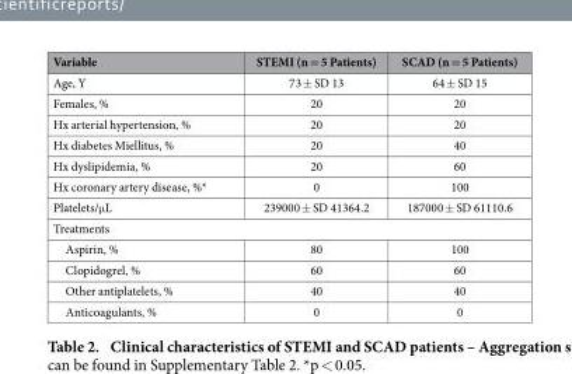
<table><thead><tr><td>Variable</td><td>STEMI (n = 5 Patients)</td><td>SCAD (n = 5 Patients)</td></tr></thead><tbody><tr><td>Age, Y</td><td>73 ± SD 13</td><td>64 ± SD 15</td></tr><tr><td>Females, %</td><td>20</td><td>20</td></tr><tr><td>Hx arterial hypertension, %</td><td>20</td><td>20</td></tr><tr><td>Hx diabetes Miellitus, %</td><td>20</td><td>40</td></tr><tr><td>Hx dyslipidemia, %</td><td>20</td><td>60</td></tr><tr><td>Hx coronary artery disease, %*</td><td>0</td><td>100</td></tr><tr><td>Platelets/μ L</td><td>239000 ± SD 41364.2</td><td>187000 ± SD 61110.6</td></tr><tr><td colspan="3">Treatments</td></tr><tr><td>Aspirin, %</td><td>80</td><td>100</td></tr><tr><td>Clopidogrel, %</td><td>60</td><td>60</td></tr><tr><td>Other antiplatelets, %</td><td>40</td><td>40</td></tr><tr><td>Anticoagulants, %</td><td>0</td><td>0</td></tr></tbody></table>